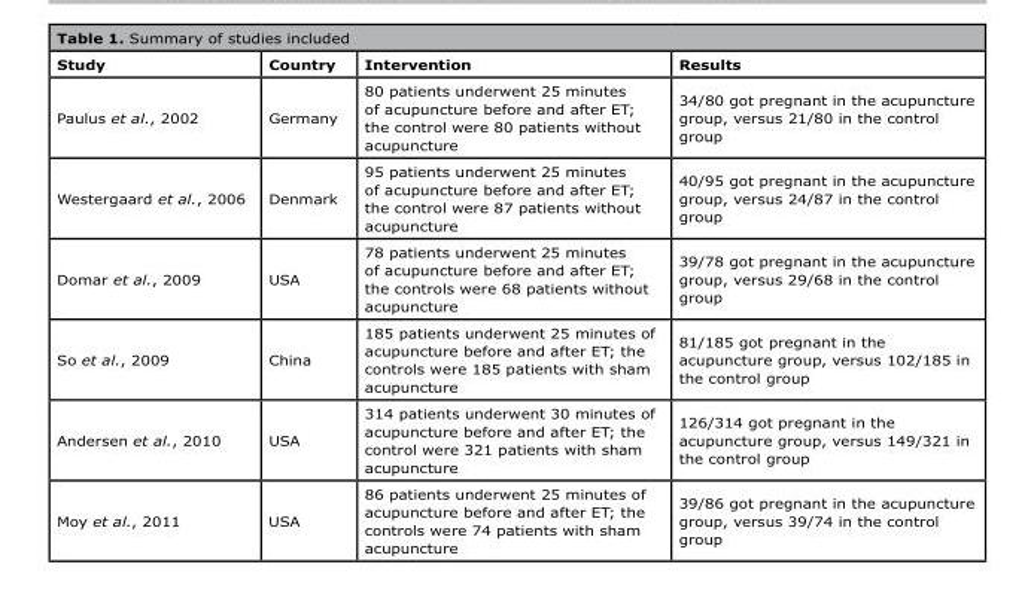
<table><thead><tr><td>Study</td><td>Country</td><td>Intervention</td><td>Results</td></tr></thead><tbody><tr><td>Paulus et al., 2002</td><td>Germany</td><td>80 patients underwent 25 minutes of acupuncture before and after ET; the control were 80 patients without acupuncture</td><td>34/80 got pregnant in the acupuncture group, versus 21/80 in the control group</td></tr><tr><td>Westergaard et al., 2006</td><td>Denmark</td><td>95 patients underwent 25 minutes of acupuncture before and after ET; the control were 87 patients without acupuncture</td><td>40/95 got pregnant in the acupuncture group, versus 24/87 in the control group</td></tr><tr><td>Domar et al., 2009</td><td>USA</td><td>78 patients underwent 25 minutes of acupuncture before and after ET; the controls were 68 patients without acupuncture</td><td>39/78 got pregnant in the acupuncture group, versus 29/68 in the control group</td></tr><tr><td>So et al., 2009</td><td>China</td><td>185 patients underwent 25 minutes of acupuncture before and after ET; the controls were 185 patients with sham acupuncture</td><td>81/185 got pregnant in the acupuncture group, versus 102/185 in the control group</td></tr><tr><td>Andersen et al., 2010</td><td>USA</td><td>314 patients underwent 30 minutes of acupuncture before and after ET; the control were 321 patients with sham acupuncture</td><td>126/314 got pregnant in the acupuncture group, versus 149/321 in the control group</td></tr><tr><td>Moy et al., 2011</td><td>USA</td><td>86 patients underwent 25 minutes of acupuncture before and after ET; the controls were 74 patients with sham acupuncture</td><td>39/86 got pregnant in the acupuncture group, versus 39/74 in the control group</td></tr></tbody></table>